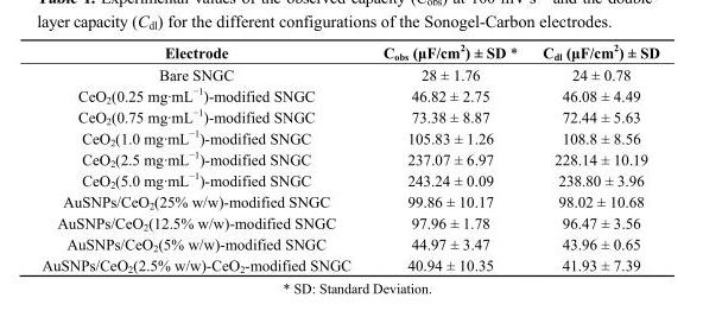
<table><thead><tr><td>Electrode</td><td>C<sub>obs</sub> (μF/cm<sup>2</sup>) ± SD *</td><td>C<sub>dl</sub> (μF/cm<sup>2</sup>) ± SD</td></tr></thead><tbody><tr><td>Bare SNGC</td><td>28 ± 1.76</td><td>24 ± 0.78</td></tr><tr><td>CeO<sub>2</sub>(0.25 mg·mL<sup>−1</sup>)-modified SNGC</td><td>46.82 ± 2.75</td><td>46.08 ± 4.49</td></tr><tr><td>CeO<sub>2</sub>(0.75 mg·mL<sup>−1</sup>)-modified SNGC</td><td>73.38 ± 8.87</td><td>72.44 ± 5.63</td></tr><tr><td>CeO<sub>2</sub>(1.0 mg·mL<sup>−1</sup>)-modified SNGC</td><td>105.83 ± 1.26</td><td>108.8 ± 8.56</td></tr><tr><td>CeO<sub>2</sub>(2.5 mg·mL<sup>−1</sup>)-modified SNGC</td><td>237.07 ± 6.97</td><td>228.14 ± 10.19</td></tr><tr><td>CeO<sub>2</sub>(5.0 mg·mL<sup>−1</sup>)-modified SNGC</td><td>243.24 ± 0.09</td><td>238.80 ± 3.96</td></tr><tr><td>AuSNPs/CeO<sub>2</sub>(25% w/w)-modified SNGC</td><td>99.86 ± 10.17</td><td>98.02 ± 10.68</td></tr><tr><td>AuSNPs/CeO<sub>2</sub>(12.5% w/w)-modified SNGC</td><td>97.96 ± 1.78</td><td>96.47 ± 3.56</td></tr><tr><td>AuSNPs/CeO<sub>2</sub>(5% w/w)-modified SNGC</td><td>44.97 ± 3.47</td><td>43.96 ± 0.65</td></tr><tr><td>AuSNPs/CeO<sub>2</sub>(2.5% w/w)-CeO<sub>2</sub>-modified SNGC</td><td>40.94 ± 10.35</td><td>41.93 ± 7.39</td></tr></tbody></table>